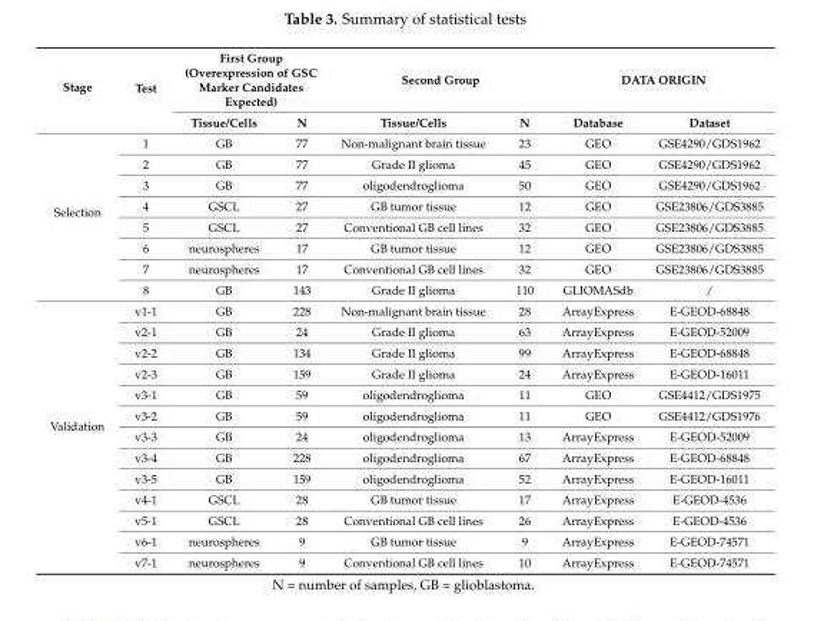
<table><thead><tr><td rowspan="2">Stage</td><td rowspan="2">Test</td><td colspan="2">First Group (Overexpression of GSC Marker Candidates Expected)</td><td colspan="2">Second Group</td><td colspan="2">DATA ORIGIN</td></tr><tr><td>Tissue/Cells</td><td>N</td><td>Tissue/Cells</td><td>N</td><td>Database</td><td>Dataset</td></tr></thead><tbody><tr><td rowspan="8">Selection</td><td>1</td><td>GB</td><td>77</td><td>Non-malignant brain tissue</td><td>23</td><td>GEO</td><td>GSE4290/GDS1962</td></tr><tr><td>2</td><td>GB</td><td>77</td><td>Grade II glioma</td><td>45</td><td>GEO</td><td>GSE4290/GDS1962</td></tr><tr><td>3</td><td>GB</td><td>77</td><td>oligodendroglioma</td><td>50</td><td>GEO</td><td>GSE4290/GDS1962</td></tr><tr><td>4</td><td>GSCL</td><td>27</td><td>GB tumor tissue</td><td>12</td><td>GEO</td><td>GSE23806/GDS3885</td></tr><tr><td>5</td><td>GSCL</td><td>27</td><td>Conventional GB cell lines</td><td>32</td><td>GEO</td><td>GSE23806/GDS3885</td></tr><tr><td>6</td><td>neurospheres</td><td>17</td><td>GB tumor tissue</td><td>12</td><td>GEO</td><td>GSE23806/GDS3885</td></tr><tr><td>7</td><td>neurospheres</td><td>17</td><td>Conventional GB cell lines</td><td>32</td><td>GEO</td><td>GSE23806/GDS3885</td></tr><tr><td>8</td><td>GB</td><td>143</td><td>Grade II glioma</td><td>110</td><td>GLIOMASdb</td><td>/</td></tr><tr><td rowspan="13">Validation</td><td>v1-1</td><td>GB</td><td>228</td><td>Non-malignant brain tissue</td><td>28</td><td>ArrayExpress</td><td>E-GEOD-68848</td></tr><tr><td>v2-1</td><td>GB</td><td>24</td><td>Grade II glioma</td><td>63</td><td>ArrayExpress</td><td>E-GEOD-52009</td></tr><tr><td>v2-2</td><td>GB</td><td>134</td><td>Grade II glioma</td><td>99</td><td>ArrayExpress</td><td>E-GEOD-68848</td></tr><tr><td>v2-3</td><td>GB</td><td>159</td><td>Grade II glioma</td><td>24</td><td>ArrayExpress</td><td>E-GEOD-16011</td></tr><tr><td>v3-1</td><td>GB</td><td>59</td><td>oligodendroglioma</td><td>11</td><td>GEO</td><td>GSE4412/GDS1975</td></tr><tr><td>v3-2</td><td>GB</td><td>59</td><td>oligodendroglioma</td><td>11</td><td>GEO</td><td>GSE4412/GDS1976</td></tr><tr><td>v3-3</td><td>GB</td><td>24</td><td>oligodendroglioma</td><td>13</td><td>ArrayExpress</td><td>E-GEOD-52009</td></tr><tr><td>v3-4</td><td>GB</td><td>228</td><td>oligodendroglioma</td><td>67</td><td>ArrayExpress</td><td>E-GEOD-68848</td></tr><tr><td>v3-5</td><td>GB</td><td>159</td><td>oligodendroglioma</td><td>52</td><td>ArrayExpress</td><td>E-GEOD-16011</td></tr><tr><td>v4-1</td><td>GSCL</td><td>28</td><td>GB tumor tissue</td><td>17</td><td>ArrayExpress</td><td>E-GEOD-4536</td></tr><tr><td>v5-1</td><td>GSCL</td><td>28</td><td>Conventional GB cell lines</td><td>26</td><td>ArrayExpress</td><td>E-GEOD-4536</td></tr><tr><td>v6-1</td><td>neurospheres</td><td>9</td><td>GB tumor tissue</td><td>9</td><td>ArrayExpress</td><td>E-GEOD-74571</td></tr><tr><td>v7-1</td><td>neurospheres</td><td>9</td><td>Conventional GB cell lines</td><td>10</td><td>ArrayExpress</td><td>E-GEOD-74571</td></tr></tbody></table>